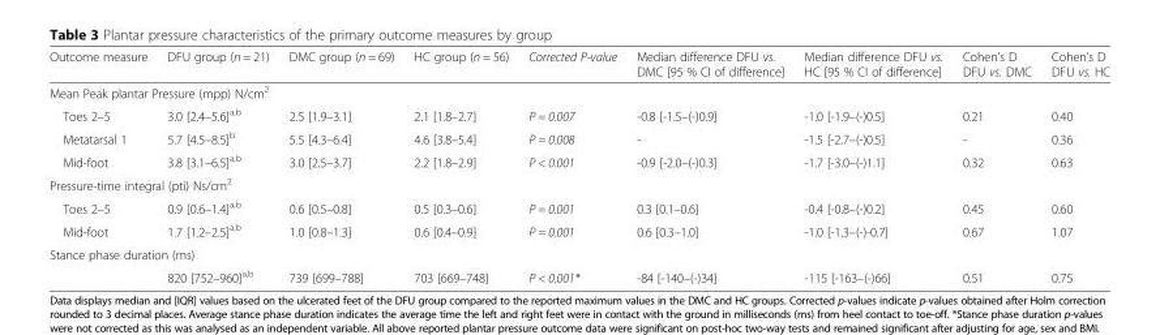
<table><thead><tr><td>Outcome measure</td><td>DFU group (n = 21)</td><td>DMC group (n = 69)</td><td>HC group (n = 56)</td><td>Corrected P-value</td><td>Median difference DFU vs. DMC [95 % CI of difference]</td><td>Median difference DFU vs. HC [95 % CI of difference]</td><td>Cohen’s D DFU vs. DMC</td><td>Cohen’s D DFU vs. HC</td></tr></thead><tbody><tr><td colspan="9">Mean Peak plantar Pressure (mpp) N/cm<sup>2</sup></td></tr><tr><td>Toes 2–5</td><td>3.0 [2.4–5.6]<sup>a,b</sup></td><td>2.5 [1.9–3.1]</td><td>2.1 [1.8–2.7]</td><td>P = 0.007</td><td>-0.8 [-1.5–(-)0.9]</td><td>-1.0 [-1.9–(-)0.5]</td><td>0.21</td><td>0.40</td></tr><tr><td>Metatarsal 1</td><td>5.7 [4.5–8.5]<sup>b</sup></td><td>5.5 [4.3–6.4]</td><td>4.6 [3.8–5.4]</td><td>P = 0.008</td><td>-</td><td>-1.5 [-2.7–(-)0.5]</td><td>-</td><td>0.36</td></tr><tr><td>Mid-foot</td><td>3.8 [3.1–6.5]<sup>a,b</sup></td><td>3.0 [2.5–3.7]</td><td>2.2 [1.8–2.9]</td><td>P &lt; 0.001</td><td>-0.9 [-2.0–(-)0.3]</td><td>-1.7 [-3.0–(-)1.1]</td><td>0.32</td><td>0.63</td></tr><tr><td colspan="9">Pressure-time integral (pti) Ns/cm<sup>2</sup></td></tr><tr><td>Toes 2–5</td><td>0.9 [0.6–1.4]<sup>a,b</sup></td><td>0.6 [0.5–0.8]</td><td>0.5 [0.3–0.6]</td><td>P = 0.001</td><td>0.3 [0.1–0.6]</td><td>-0.4 [-0.8–(-)0.2]</td><td>0.45</td><td>0.60</td></tr><tr><td>Mid-foot</td><td>1.7 [1.2–2.5]<sup>a,b</sup></td><td>1.0 [0.8–1.3]</td><td>0.6 [0.4–0.9]</td><td>P = 0.001</td><td>0.6 [0.3–1.0]</td><td>-1.0 [-1.3–(-)-0.7]</td><td>0.67</td><td>1.07</td></tr><tr><td colspan="9">Stance phase duration (ms)</td></tr><tr><td></td><td>820 [752–960]<sup>a,b</sup></td><td>739 [699–788]</td><td>703 [669–748]</td><td>P &lt; 0.001*</td><td>-84 [-140–(-)34]</td><td>-115 [-163–(-)66]</td><td>0.51</td><td>0.75</td></tr></tbody></table>